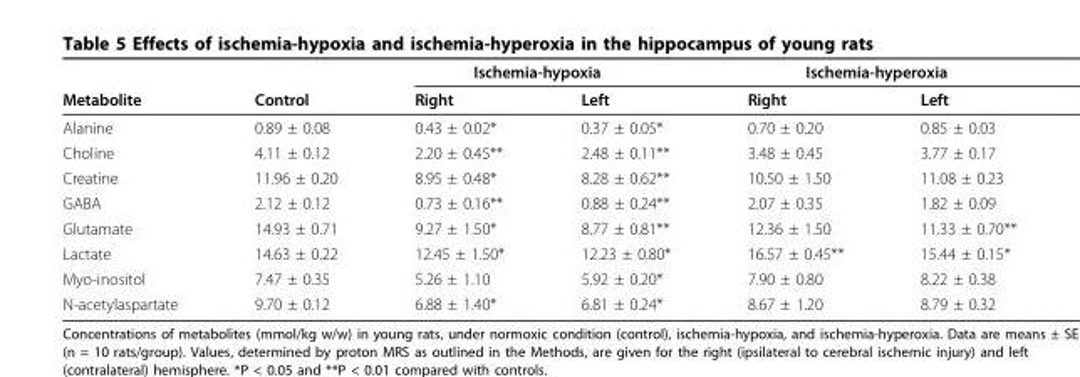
<table><thead><tr><td rowspan="2">Metabolite</td><td rowspan="2">Control</td><td colspan="2">Ischemia-hypoxia</td><td colspan="2">Ischemia-hyperoxia</td></tr><tr><td>Right</td><td>Left</td><td>Right</td><td>Left</td></tr></thead><tbody><tr><td>Alanine</td><td>0.89 ± 0.08</td><td>0.43 ± 0.02*</td><td>0.37 ± 0.05*</td><td>0.70 ± 0.20</td><td>0.85 ± 0.03</td></tr><tr><td>Choline</td><td>4.11 ± 0.12</td><td>2.20 ± 0.45**</td><td>2.48 ± 0.11**</td><td>3.48 ± 0.45</td><td>3.77 ± 0.17</td></tr><tr><td>Creatine</td><td>11.96 ± 0.20</td><td>8.95 ± 0.48*</td><td>8.28 ± 0.62**</td><td>10.50 ± 1.50</td><td>11.08 ± 0.23</td></tr><tr><td>GABA</td><td>2.12 ± 0.12</td><td>0.73 ± 0.16**</td><td>0.88 ± 0.24**</td><td>2.07 ± 0.35</td><td>1.82 ± 0.09</td></tr><tr><td>Glutamate</td><td>14.93 ± 0.71</td><td>9.27 ± 1.50*</td><td>8.77 ± 0.81**</td><td>12.36 ± 1.50</td><td>11.33 ± 0.70**</td></tr><tr><td>Lactate</td><td>14.63 ± 0.22</td><td>12.45 ± 1.50*</td><td>12.23 ± 0.80*</td><td>16.57 ± 0.45**</td><td>15.44 ± 0.15*</td></tr><tr><td>Myo-inositol</td><td>7.47 ± 0.35</td><td>5.26 ± 1.10</td><td>5.92 ± 0.20*</td><td>7.90 ± 0.80</td><td>8.22 ± 0.38</td></tr><tr><td>N-acetylaspartate</td><td>9.70 ± 0.12</td><td>6.88 ± 1.40*</td><td>6.81 ± 0.24*</td><td>8.67 ± 1.20</td><td>8.79 ± 0.32</td></tr></tbody></table>